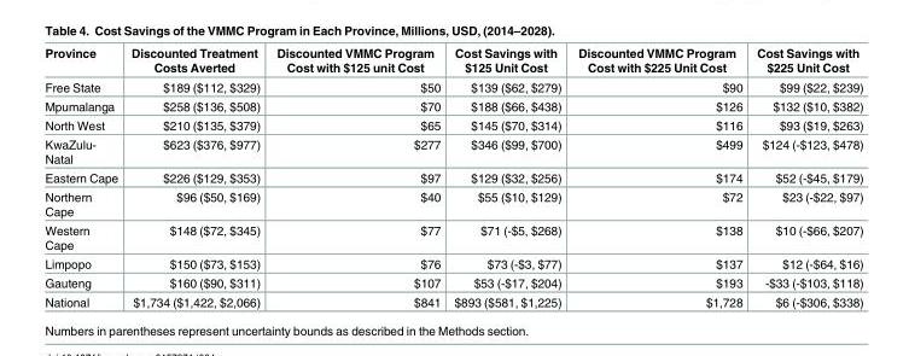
<table><thead><tr><td>Province</td><td>Discounted Treatment Costs Averted</td><td>Discounted VMMC Program Cost with $125 unit Cost</td><td>Cost Savings with $125 Unit Cost</td><td>Discounted VMMC Program Cost with $225 Unit Cost</td><td>Cost Savings with $225 Unit Cost</td></tr></thead><tbody><tr><td>Free State</td><td>$189 ($112, $329)</td><td>$50</td><td>$139 ($62, $279)</td><td>$90</td><td>$99 ($22, $239)</td></tr><tr><td>Mpumalanga</td><td>$258 ($136, $508)</td><td>$70</td><td>$188 ($66, $438)</td><td>$126</td><td>$132 ($10, $382)</td></tr><tr><td>North West</td><td>$210 ($135, $379)</td><td>$65</td><td>$145 ($70, $314)</td><td>$116</td><td>$93 ($19, $263)</td></tr><tr><td>KwaZulu- Natal</td><td>$623 ($376, $977)</td><td>$277</td><td>$346 ($99, $700)</td><td>$499</td><td>$124 (-$123, $478)</td></tr><tr><td>Eastern Cape</td><td>$226 ($129, $353)</td><td>$97</td><td>$129 ($32, $256)</td><td>$174</td><td>$52 (-$45, $179)</td></tr><tr><td>Northern Cape</td><td>$96 ($50, $169)</td><td>$40</td><td>$55 ($10, $129)</td><td>$72</td><td>$23 (-$22, $97)</td></tr><tr><td>Western Cape</td><td>$148 ($72, $345)</td><td>$77</td><td>$71 (-$5, $268)</td><td>$138</td><td>$10 (-$66, $207)</td></tr><tr><td>Limpopo</td><td>$150 ($73, $153)</td><td>$76</td><td>$73 (-$3, $77)</td><td>$137</td><td>$12 (-$64, $16)</td></tr><tr><td>Gauteng</td><td>$160 ($90, $311)</td><td>$107</td><td>$53 (-$17, $204)</td><td>$193</td><td>-$33 (-$103, $118)</td></tr><tr><td>National</td><td>$1,734 ($1,422, $2,066)</td><td>$841</td><td>$893 ($581, $1,225)</td><td>$1,728</td><td>$6 (-$306, $338)</td></tr></tbody></table>